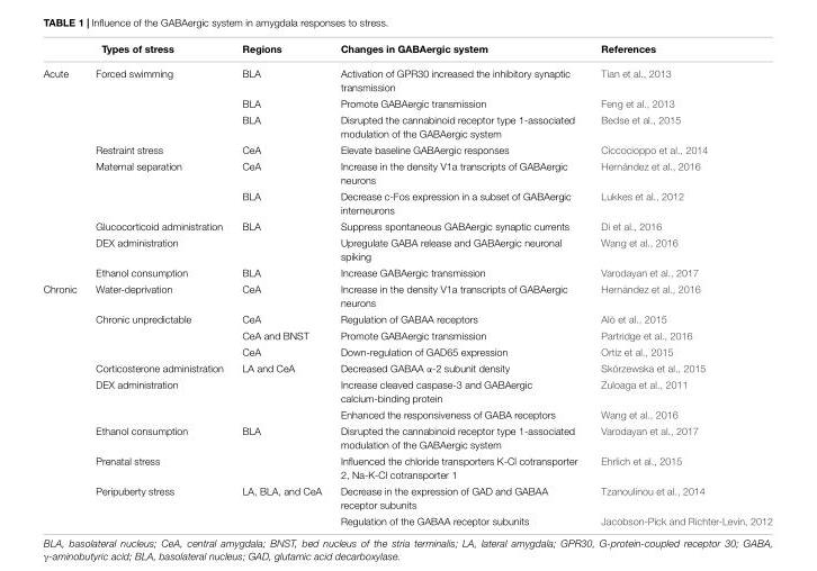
<table><thead><tr><td colspan="2">Types of stress</td><td rowspan="2">Regions BLA</td><td rowspan="2">Changes in GABAergic system Activation of GPR30 increased the inhibitory synaptic transmission</td><td rowspan="2">References Tian et al., 2013</td></tr><tr><td>Acute</td><td>Forced swimming</td></tr></thead><tbody><tr><td></td><td></td><td>BLA</td><td>Promote GABAergic transmission</td><td>Feng et al., 2013</td></tr><tr><td></td><td></td><td>BLA</td><td>Disrupted the cannabinoid receptor type 1-associated modulation of the GABAergic system</td><td>Bedse et al., 2015</td></tr><tr><td></td><td>Restraint stress</td><td>CeA</td><td>Elevate baseline GABAergic responses</td><td>Ciccocioppo et al., 2014</td></tr><tr><td></td><td>Maternal separation</td><td>CeA</td><td>Increase in the density V1a transcripts of GABAergic neurons</td><td>Hernández et al., 2016</td></tr><tr><td></td><td></td><td>BLA</td><td>Decrease c-Fos expression in a subset of GABAergic interneurons</td><td>Lukkes et al., 2012</td></tr><tr><td></td><td>Glucocorticoid administration</td><td>BLA</td><td>Suppress spontaneous GABAergic synaptic currents</td><td>Di et al., 2016</td></tr><tr><td></td><td>DEX administration</td><td></td><td>Upregulate GABA release and GABAergic neuronal spiking</td><td>Wang et al., 2016</td></tr><tr><td></td><td>Ethanol consumption</td><td>BLA</td><td>Increase GABAergic transmission</td><td>Varodayan et al., 2017</td></tr><tr><td rowspan="11">Chronic</td><td>Water-deprivation</td><td>CeA</td><td>Increase in the density V1a transcripts of GABAergic neurons</td><td>Hernández et al., 2016</td></tr><tr><td>Chronic unpredictable</td><td>CeA</td><td>Regulation of GABAA receptors</td><td>Alò et al., 2015</td></tr><tr><td></td><td>CeA and BNST</td><td>Promote GABAergic transmission</td><td>Partridge et al., 2016</td></tr><tr><td></td><td>CeA</td><td>Down-regulation of GAD65 expression</td><td>Ortiz et al., 2015</td></tr><tr><td>Corticosterone administration</td><td>LA and CeA</td><td>Decreased GABAA α-2 subunit density</td><td>Skórzewska et al., 2015</td></tr><tr><td>DEX administration</td><td></td><td>Increase cleaved caspase-3 and GABAergic calcium-binding protein</td><td>Zuloaga et al., 2011</td></tr><tr><td></td><td></td><td>Enhanced the responsiveness of GABA receptors</td><td>Wang et al., 2016</td></tr><tr><td>Ethanol consumption</td><td>BLA</td><td>Disrupted the cannabinoid receptor type 1-associated modulation of the GABAergic system</td><td>Varodayan et al., 2017</td></tr><tr><td>Prenatal stress</td><td></td><td>Influenced the chloride transporters K-Cl cotransporter 2, Na-K-Cl cotransporter 1</td><td>Ehrlich et al., 2015</td></tr><tr><td>Peripuberty stress</td><td>LA, BLA, and CeA</td><td>Decrease in the expression of GAD and GABAA receptor subunits</td><td>Tzanoulinou et al., 2014</td></tr><tr><td></td><td></td><td>Regulation of the GABAA receptor subunits</td><td>Jacobson-Pick and Richter-Levin, 2012</td></tr></tbody></table>